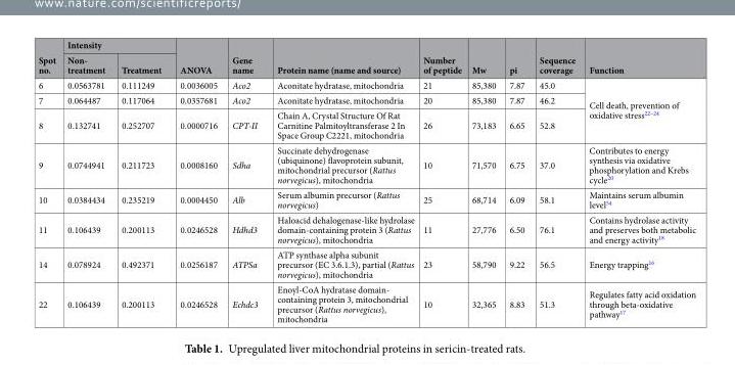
<table><thead><tr><td rowspan="2">Spot no.</td><td colspan="2">Intensity</td><td rowspan="2">ANOVA</td><td rowspan="2">Gene name</td><td rowspan="2">Protein name (name and source)</td><td rowspan="2">Number of peptide</td><td rowspan="2">Mw</td><td rowspan="2">pi</td><td rowspan="2">Sequence coverage</td><td rowspan="2">Function</td></tr><tr><td>Non- treatment</td><td>Treatment</td></tr></thead><tbody><tr><td>6</td><td>0.0563781</td><td>0.111249</td><td>0.0036005</td><td>Aco2</td><td>Aconitate hydratase, mitochondria</td><td>21</td><td>85,380</td><td>7.87</td><td>45.0</td><td rowspan="3">Cell death, prevention of oxidative stress<sup>22–24</sup></td></tr><tr><td>7</td><td>0.064487</td><td>0.117064</td><td>0.0357681</td><td>Aco2</td><td>Aconitate hydratase, mitochondria</td><td>20</td><td>85,380</td><td>7.87</td><td>46.2</td></tr><tr><td>8</td><td>0.132741</td><td>0.252707</td><td>0.0000716</td><td>CPT-II</td><td>Chain A, Crystal Structure Of Rat Carnitine Palmitoyltransferase 2 In Space Group C2221, mitochondria</td><td>26</td><td>73,183</td><td>6.65</td><td>52.8</td></tr><tr><td>9</td><td>0.0744941</td><td>0.211723</td><td>0.0008160</td><td>Sdha</td><td>Succinate dehydrogenase (ubiquinone) flavoprotein subunit, mitochondrial precursor (Rattus norvegicus), mitochondria</td><td>10</td><td>71,570</td><td>6.75</td><td>37.0</td><td>Contributes to energy synthesis via oxidative phosphorylation and Krebs cycle<sup>20</sup></td></tr><tr><td>10</td><td>0.0384434</td><td>0.235219</td><td>0.0004450</td><td>Alb</td><td>Serum albumin precursor (Rattus norvegicus)</td><td>25</td><td>68,714</td><td>6.09</td><td>58.1</td><td>Maintains serum albumin level<sup>54</sup></td></tr><tr><td>11</td><td>0.106439</td><td>0.200113</td><td>0.0246528</td><td>Hdhd3</td><td>Haloacid dehalogenase-like hydrolase domain-containing protein 3 (Rattus norvegicus), mitochondria</td><td>11</td><td>27,776</td><td>6.50</td><td>76.1</td><td>Contains hydrolase activity and preserves both metabolic and energy activity<sup>18</sup></td></tr><tr><td>14</td><td>0.078924</td><td>0.492371</td><td>0.0256187</td><td>ATPSa</td><td>ATP synthase alpha subunit precursor (EC 3.6.1.3), partial (Rattus norvegicus), mitochondria</td><td>23</td><td>58,790</td><td>9.22</td><td>56.5</td><td>Energy trapping<sup>16</sup></td></tr><tr><td>22</td><td>0.106439</td><td>0.200113</td><td>0.0246528</td><td>Echdc3</td><td>Enoyl-CoA hydratase domain- containing protein 3, mitochondrial precursor (Rattus norvegicus), mitochondria</td><td>10</td><td>32,365</td><td>8.83</td><td>51.3</td><td>Regulates fatty acid oxidation through beta-oxidative pathway<sup>17</sup></td></tr></tbody></table>